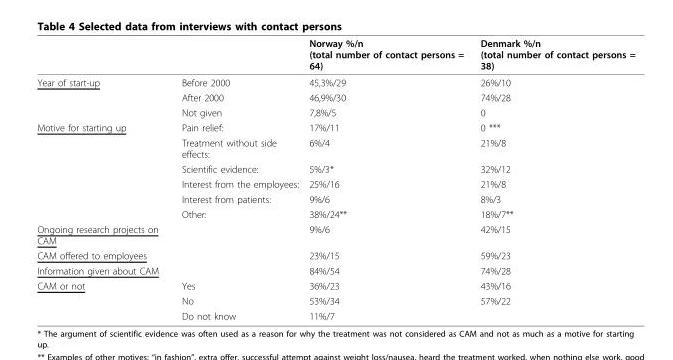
<table><thead><tr><td></td><td></td><td>Norway %/n (total number of contact persons = 64)</td><td>Denmark %/n (total number of contact persons = 38)</td></tr></thead><tbody><tr><td rowspan="3">Year of start-up</td><td>Before 2000</td><td>45,3%/29</td><td>26%/10</td></tr><tr><td>After 2000</td><td>46,9%/30</td><td>74%/28</td></tr><tr><td>Not given</td><td>7,8%/5</td><td>0</td></tr><tr><td rowspan="6">Motive for starting up</td><td>Pain relief:</td><td>17%/11</td><td>0 ***</td></tr><tr><td>Treatment without side effects:</td><td>6%/4</td><td>21%/8</td></tr><tr><td>Scientific evidence:</td><td>5%/3*</td><td>32%/12</td></tr><tr><td>Interest from the employees:</td><td>25%/16</td><td>21%/8</td></tr><tr><td>Interest from patients:</td><td>9%/6</td><td>8%/3</td></tr><tr><td>Other:</td><td>38%/24**</td><td>18%/7**</td></tr><tr><td>Ongoing research projects on CAM</td><td></td><td>9%/6</td><td>42%/15</td></tr><tr><td>CAM offered to employees</td><td></td><td>23%/15</td><td>59%/23</td></tr><tr><td>Information given about CAM</td><td></td><td>84%/54</td><td>74%/28</td></tr><tr><td rowspan="3">CAM or not</td><td>Yes</td><td>36%/23</td><td>43%/16</td></tr><tr><td>No</td><td>53%/34</td><td>57%/22</td></tr><tr><td>Do not know</td><td>11%/7</td><td></td></tr></tbody></table>